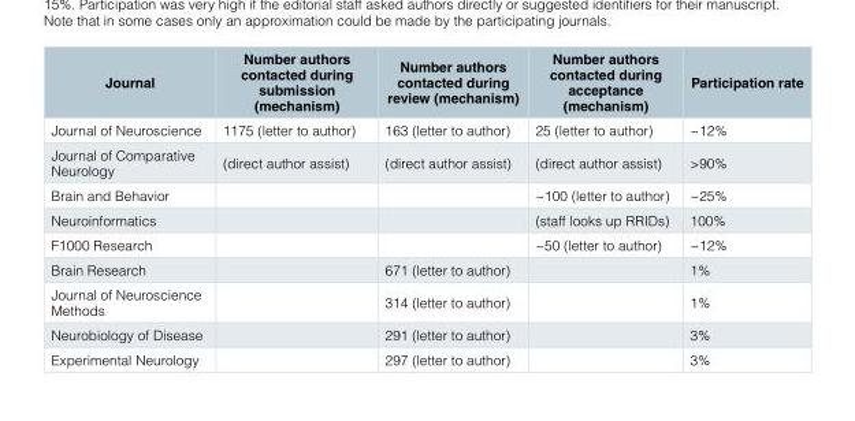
<table><thead><tr><td>Journal</td><td>Number authors contacted during submission (mechanism)</td><td>Number authors contacted during review (mechanism)</td><td>Number authors contacted during acceptance (mechanism)</td><td>Participation rate</td></tr></thead><tbody><tr><td>Journal of Neuroscience</td><td>1175 (letter to author)</td><td>163 (letter to author)</td><td>25 (letter to author)</td><td>~12%</td></tr><tr><td>Journal of Comparative Neurology</td><td>(direct author assist)</td><td>(direct author assist)</td><td>(direct author assist)</td><td>&gt;90%</td></tr><tr><td>Brain and Behavior</td><td></td><td></td><td>~100 (letter to author)</td><td>~25%</td></tr><tr><td>Neuroinformatics</td><td></td><td></td><td>(staff looks up RRIDs)</td><td>100%</td></tr><tr><td>F1000 Research</td><td></td><td></td><td>~50 (letter to author)</td><td>~12%</td></tr><tr><td>Brain Research</td><td></td><td>671 (letter to author)</td><td></td><td>1%</td></tr><tr><td>Journal of Neuroscience Methods</td><td></td><td>314 (letter to author)</td><td></td><td>1%</td></tr><tr><td>Neurobiology of Disease</td><td></td><td>291 (letter to author)</td><td></td><td>3%</td></tr><tr><td>Experimental Neurology</td><td></td><td>297 (letter to author)</td><td></td><td>3%</td></tr></tbody></table>